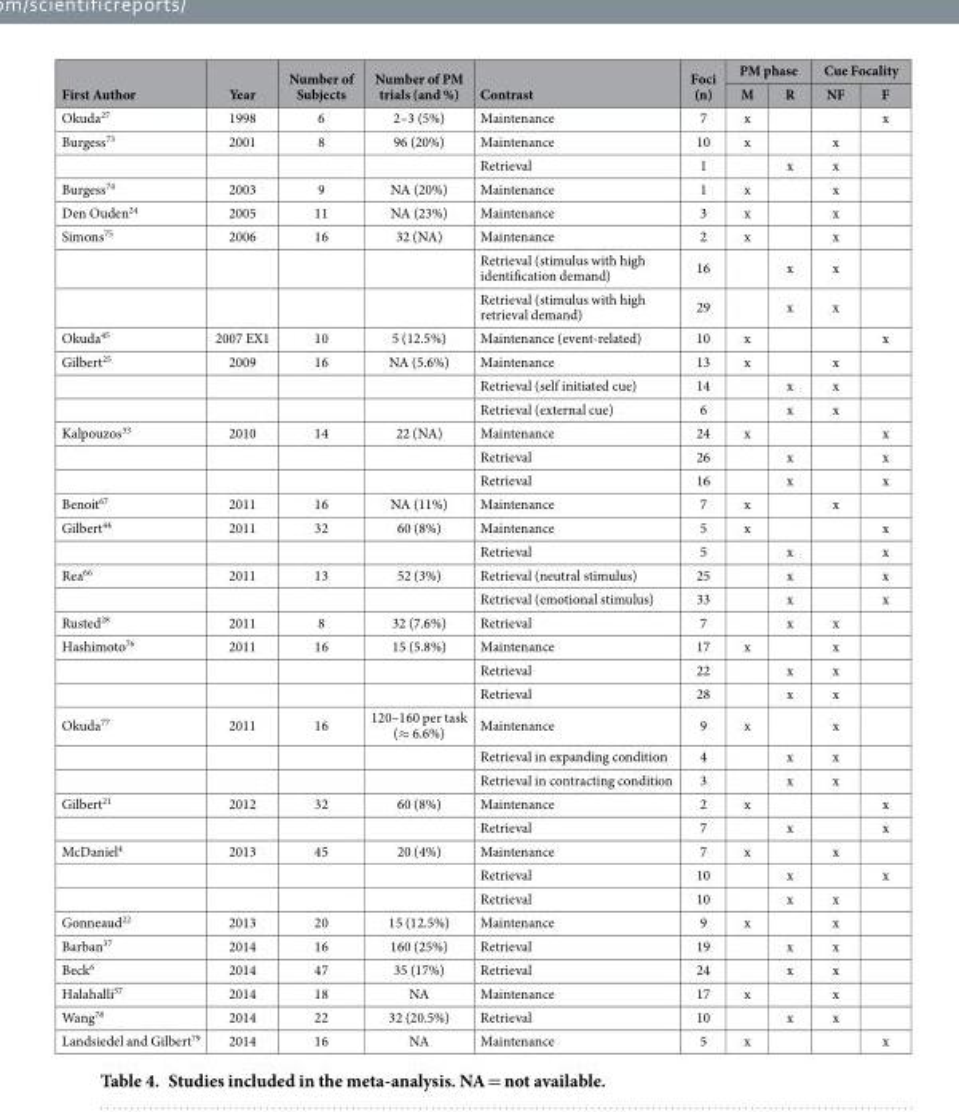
<table><thead><tr><td rowspan="2">First Author</td><td rowspan="2">Year</td><td rowspan="2">Number of Subjects</td><td rowspan="2">Number of PM trials (and %)</td><td rowspan="2">Contrast</td><td rowspan="2">Foci (n)</td><td colspan="2">PM phase</td><td colspan="2">Cue Focality</td></tr><tr><td>M</td><td>R</td><td>NF</td><td>F</td></tr></thead><tbody><tr><td>Okuda<sup>27</sup></td><td>1998</td><td>6</td><td>2–3 (5%)</td><td>Maintenance</td><td>7</td><td>x</td><td></td><td></td><td>x</td></tr><tr><td rowspan="2">Burgess<sup>73</sup></td><td>2001</td><td>8</td><td>96 (20%)</td><td>Maintenance</td><td>10</td><td>x</td><td></td><td>x</td><td></td></tr><tr><td></td><td></td><td></td><td>Retrieval</td><td>1</td><td></td><td>x</td><td>x</td><td></td></tr><tr><td>Burgess<sup>74</sup></td><td>2003</td><td>9</td><td>NA (20%)</td><td>Maintenance</td><td>1</td><td>x</td><td></td><td>x</td><td></td></tr><tr><td>Den Ouden<sup>24</sup></td><td>2005</td><td>11</td><td>NA (23%)</td><td>Maintenance</td><td>3</td><td>x</td><td></td><td>x</td><td></td></tr><tr><td rowspan="3">Simons<sup>75</sup></td><td>2006</td><td>16</td><td>32 (NA)</td><td>Maintenance</td><td>2</td><td>x</td><td></td><td>x</td><td></td></tr><tr><td></td><td></td><td></td><td>Retrieval (stimulus with high identification demand)</td><td>16</td><td></td><td>x</td><td>x</td><td></td></tr><tr><td></td><td></td><td></td><td>Retrieval (stimulus with high retrieval demand)</td><td>29</td><td></td><td>x</td><td>x</td><td></td></tr><tr><td>Okuda<sup>45</sup></td><td>2007 EX1</td><td>10</td><td>5 (12.5%)</td><td>Maintenance (event-related)</td><td>10</td><td>x</td><td></td><td></td><td>x</td></tr><tr><td rowspan="3">Gilbert<sup>25</sup></td><td>2009</td><td>16</td><td>NA (5.6%)</td><td>Maintenance</td><td>13</td><td>x</td><td></td><td>x</td><td></td></tr><tr><td></td><td></td><td></td><td>Retrieval (self initiated cue)</td><td>14</td><td></td><td>x</td><td>x</td><td></td></tr><tr><td></td><td></td><td></td><td>Retrieval (external cue)</td><td>6</td><td></td><td>x</td><td>x</td><td></td></tr><tr><td rowspan="3">Kalpouzos<sup>33</sup></td><td>2010</td><td>14</td><td>22 (NA)</td><td>Maintenance</td><td>24</td><td>x</td><td></td><td></td><td>x</td></tr><tr><td></td><td></td><td></td><td>Retrieval</td><td>26</td><td></td><td>x</td><td></td><td>x</td></tr><tr><td></td><td></td><td></td><td>Retrieval</td><td>16</td><td></td><td>x</td><td></td><td>x</td></tr><tr><td>Benoit<sup>67</sup></td><td>2011</td><td>16</td><td>NA (11%)</td><td>Maintenance</td><td>7</td><td>x</td><td></td><td>x</td><td></td></tr><tr><td rowspan="2">Gilbert<sup>44</sup></td><td>2011</td><td>32</td><td>60 (8%)</td><td>Maintenance</td><td>5</td><td>x</td><td></td><td></td><td>x</td></tr><tr><td></td><td></td><td></td><td>Retrieval</td><td>5</td><td></td><td>x</td><td></td><td>x</td></tr><tr><td rowspan="2">Rea<sup>66</sup></td><td>2011</td><td>13</td><td>52 (3%)</td><td>Retrieval (neutral stimulus)</td><td>25</td><td></td><td>x</td><td></td><td>x</td></tr><tr><td></td><td></td><td></td><td>Retrieval (emotional stimulus)</td><td>33</td><td></td><td>x</td><td></td><td>x</td></tr><tr><td>Rusted<sup>28</sup></td><td>2011</td><td>8</td><td>32 (7.6%)</td><td>Retrieval</td><td>7</td><td></td><td>x</td><td>x</td><td></td></tr><tr><td rowspan="3">Hashimoto<sup>76</sup></td><td>2011</td><td>16</td><td>15 (5.8%)</td><td>Maintenance</td><td>17</td><td>x</td><td></td><td>x</td><td></td></tr><tr><td></td><td></td><td></td><td>Retrieval</td><td>22</td><td></td><td>x</td><td>x</td><td></td></tr><tr><td></td><td></td><td></td><td>Retrieval</td><td>28</td><td></td><td>x</td><td>x</td><td></td></tr><tr><td rowspan="3">Okuda<sup>77</sup></td><td>2011</td><td>16</td><td>120–160 per task (≈ 6.6%)</td><td>Maintenance</td><td>9</td><td>x</td><td></td><td>x</td><td></td></tr><tr><td></td><td></td><td></td><td>Retrieval in expanding condition</td><td>4</td><td></td><td>x</td><td>x</td><td></td></tr><tr><td></td><td></td><td></td><td>Retrieval in contracting condition</td><td>3</td><td></td><td>x</td><td>x</td><td></td></tr><tr><td rowspan="2">Gilbert<sup>21</sup></td><td>2012</td><td>32</td><td>60 (8%)</td><td>Maintenance</td><td>2</td><td>x</td><td></td><td></td><td>x</td></tr><tr><td></td><td></td><td></td><td>Retrieval</td><td>7</td><td></td><td>x</td><td></td><td>x</td></tr><tr><td rowspan="3">McDaniel<sup>4</sup></td><td>2013</td><td>45</td><td>20 (4%)</td><td>Maintenance</td><td>7</td><td>x</td><td></td><td>x</td><td></td></tr><tr><td></td><td></td><td></td><td>Retrieval</td><td>10</td><td></td><td>x</td><td></td><td>x</td></tr><tr><td></td><td></td><td></td><td>Retrieval</td><td>10</td><td></td><td>x</td><td>x</td><td></td></tr><tr><td>Gonneaud<sup>22</sup></td><td>2013</td><td>20</td><td>15 (12.5%)</td><td>Maintenance</td><td>9</td><td>x</td><td></td><td>x</td><td></td></tr><tr><td>Barban<sup>37</sup></td><td>2014</td><td>16</td><td>160 (25%)</td><td>Retrieval</td><td>19</td><td></td><td>x</td><td>x</td><td></td></tr><tr><td>Beck<sup>6</sup></td><td>2014</td><td>47</td><td>35 (17%)</td><td>Retrieval</td><td>24</td><td></td><td>x</td><td>x</td><td></td></tr><tr><td>Halahalli<sup>57</sup></td><td>2014</td><td>18</td><td>NA</td><td>Maintenance</td><td>17</td><td>x</td><td></td><td>x</td><td></td></tr><tr><td>Wang<sup>78</sup></td><td>2014</td><td>22</td><td>32 (20.5%)</td><td>Retrieval</td><td>10</td><td></td><td>x</td><td>x</td><td></td></tr><tr><td>Landsiedel and Gilbert<sup>79</sup></td><td>2014</td><td>16</td><td>NA</td><td>Maintenance</td><td>5</td><td>x</td><td></td><td></td><td>x</td></tr></tbody></table>